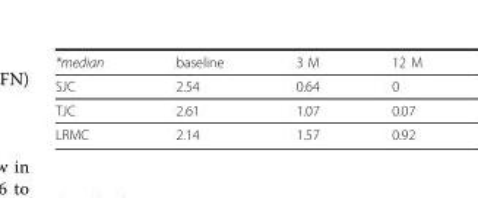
<table><thead><tr><td>*median</td><td>baseline</td><td>3 M</td><td>12 M</td></tr></thead><tbody><tr><td>SJC</td><td>2.54</td><td>0.64</td><td>0</td></tr><tr><td>TJC</td><td>2.61</td><td>1.07</td><td>0.07</td></tr><tr><td>LRMC</td><td>2.14</td><td>1.57</td><td>0.92</td></tr></tbody></table>